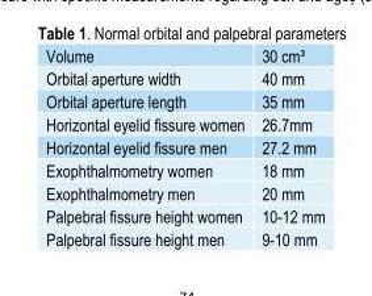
<table><tbody><tr><td>Volume</td><td>30 cm³</td></tr><tr><td>Orbital aperture width</td><td>40 mm</td></tr><tr><td>Orbital aperture length</td><td>35 mm</td></tr><tr><td>Horizontal eyelid fissure women</td><td>26.7mm</td></tr><tr><td>Horizontal eyelid fissure men</td><td>27.2 mm</td></tr><tr><td>Exophthalmometry women</td><td>18 mm</td></tr><tr><td>Exophthalmometry men</td><td>20 mm</td></tr><tr><td>Palpebral fissure height women</td><td>10-12 mm</td></tr><tr><td>Palpebral fissure height men</td><td>9-10 mm</td></tr></tbody></table>